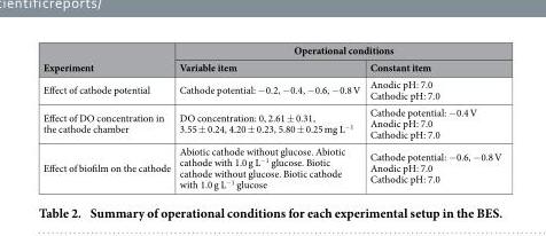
<table><thead><tr><td rowspan="2">Experiment</td><td colspan="2">Operational conditions</td></tr><tr><td>Variable item</td><td>Constant item</td></tr></thead><tbody><tr><td>Effect of cathode potential</td><td>Cathode potential: − 0.2, − 0.4, − 0.6, − 0.8 V</td><td>Anodic pH: 7.0 Cathodic pH: 7.0</td></tr><tr><td>Effect of DO concentration in the cathode chamber</td><td>DO concentration: 0, 2.61 ± 0.31, 3.55 ± 0.24, 4.20 ± 0.23, 5.80 ± 0.25 mg L<sup>−1</sup></td><td>Cathode potential: − 0.4 V Anodic pH: 7.0 Cathodic pH: 7.0</td></tr><tr><td>Effect of biofilm on the cathode</td><td>Abiotic cathode without glucose. Abiotic cathode with 1.0 g L<sup>−1</sup> glucose. Biotic cathode without glucose. Biotic cathode with 1.0 g L<sup>−1</sup> glucose</td><td>Cathode potential: − 0.6, − 0.8 V Anodic pH: 7.0 Cathodic pH: 7.0</td></tr></tbody></table>